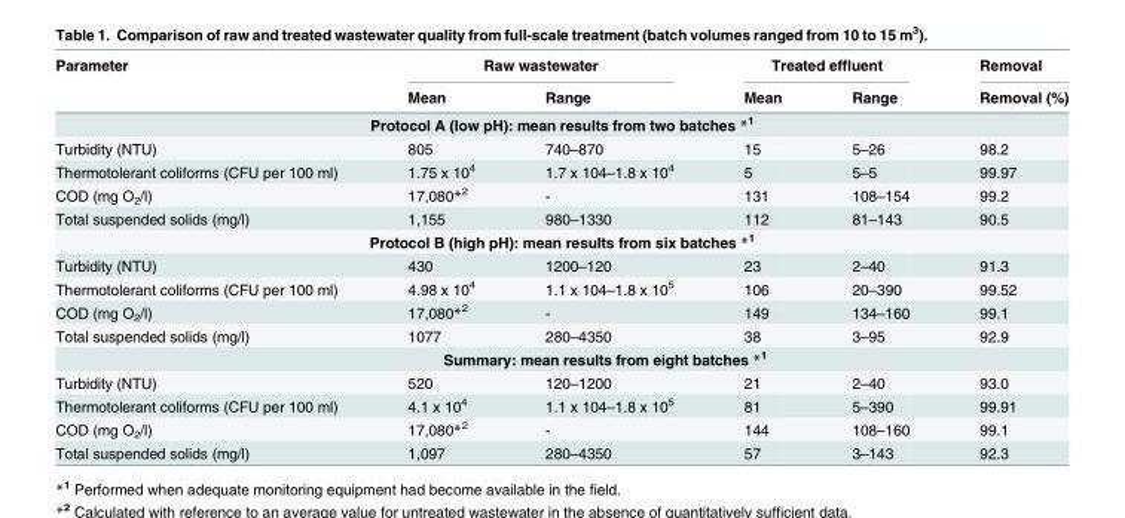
<table><thead><tr><td rowspan="2">Parameter</td><td colspan="2">Raw wastewater</td><td colspan="2">Treated effluent</td><td rowspan="2">Removal Removal (%)</td></tr><tr><td>Mean</td><td>Range</td><td>Mean</td><td>Range</td></tr></thead><tbody><tr><td colspan="6">Protocol A (low pH): mean results from two batches *<sup>1</sup></td></tr><tr><td>Turbidity (NTU)</td><td>805</td><td>740–870</td><td>15</td><td>5–26</td><td>98.2</td></tr><tr><td>Thermotolerant coliforms (CFU per 100 ml)</td><td>1.75 x 10<sup>4</sup></td><td>1.7 x 10<sup>4</sup>–1.8 x 10<sup>4</sup></td><td>5</td><td>5–5</td><td>99.97</td></tr><tr><td>COD (mg O<sub>2</sub>/l)</td><td>17,080*<sup>2</sup></td><td>-</td><td>131</td><td>108–154</td><td>99.2</td></tr><tr><td>Total suspended solids (mg/l)</td><td>1,155</td><td>980–1330</td><td>112</td><td>81–143</td><td>90.5</td></tr><tr><td colspan="6">Protocol B (high pH): mean results from six batches *<sup>1</sup></td></tr><tr><td>Turbidity (NTU)</td><td>430</td><td>1200–120</td><td>23</td><td>2–40</td><td>91.3</td></tr><tr><td>Thermotolerant coliforms (CFU per 100 ml)</td><td>4.98 x 10<sup>4</sup></td><td>1.1 x 10<sup>4</sup>–1.8 x 10<sup>5</sup></td><td>106</td><td>20–390</td><td>99.52</td></tr><tr><td>COD (mg O<sub>2</sub>/l)</td><td>17,080*<sup>2</sup></td><td>-</td><td>149</td><td>134–160</td><td>99.1</td></tr><tr><td>Total suspended solids (mg/l)</td><td>1077</td><td>280–4350</td><td>38</td><td>3–95</td><td>92.9</td></tr><tr><td colspan="6">Summary: mean results from eight batches *<sup>1</sup></td></tr><tr><td>Turbidity (NTU)</td><td>520</td><td>120–1200</td><td>21</td><td>2–40</td><td>93.0</td></tr><tr><td>Thermotolerant coliforms (CFU per 100 ml)</td><td>4.1 x 10<sup>4</sup></td><td>1.1 x 10<sup>4</sup>–1.8 x 10<sup>5</sup></td><td>81</td><td>5–390</td><td>99.91</td></tr><tr><td>COD (mg O<sub>2</sub>/l)</td><td>17,080*<sup>2</sup></td><td>-</td><td>144</td><td>108–160</td><td>99.1</td></tr><tr><td>Total suspended solids (mg/l)</td><td>1,097</td><td>280–4350</td><td>57</td><td>3–143</td><td>92.3</td></tr></tbody></table>